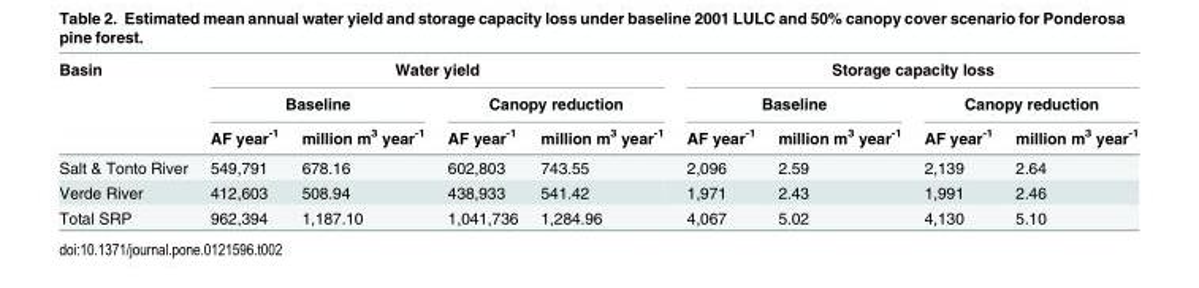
<table><thead><tr><td rowspan="3">Basin</td><td colspan="4">Water yield</td><td colspan="4">Storage capacity loss</td></tr><tr><td colspan="2">Baseline</td><td colspan="2">Canopy reduction</td><td colspan="2">Baseline</td><td colspan="2">Canopy reduction</td></tr><tr><td>AF year<sup>-1</sup></td><td>million m<sup>3</sup> year<sup>-1</sup></td><td>AF year<sup>-1</sup></td><td>million m<sup>3</sup> year<sup>-1</sup></td><td>AF year<sup>-1</sup></td><td>million m<sup>3</sup> year<sup>-1</sup></td><td>AF year<sup>-1</sup></td><td>million m<sup>3</sup> year<sup>-1</sup></td></tr></thead><tbody><tr><td>Salt &amp; Tonto River</td><td>549,791</td><td>678.16</td><td>602,803</td><td>743.55</td><td>2,096</td><td>2.59</td><td>2,139</td><td>2.64</td></tr><tr><td>Verde River</td><td>412,603</td><td>508.94</td><td>438,933</td><td>541.42</td><td>1,971</td><td>2.43</td><td>1,991</td><td>2.46</td></tr><tr><td>Total SRP</td><td>962,394</td><td>1,187.10</td><td>1,041,736</td><td>1,284.96</td><td>4,067</td><td>5.02</td><td>4,130</td><td>5.10</td></tr></tbody></table>